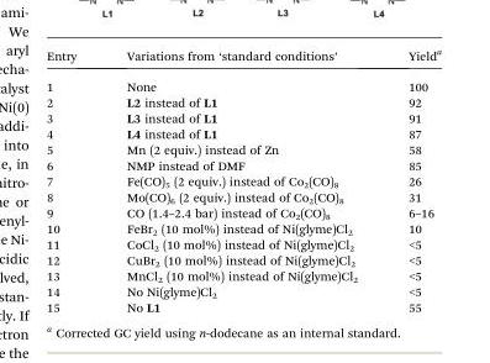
<table><thead><tr><td>Entry</td><td>Variations from ‘standard conditions’</td><td>Yield<sup>a</sup></td></tr></thead><tbody><tr><td>1</td><td>None</td><td>100</td></tr><tr><td>2</td><td>L2 instead of L1</td><td>92</td></tr><tr><td>3</td><td>L3 instead of L1</td><td>91</td></tr><tr><td>4</td><td>L4 instead of L1</td><td>87</td></tr><tr><td>5</td><td>Mn (2 equiv.) instead of Zn</td><td>58</td></tr><tr><td>6</td><td>NMP instead of DMF</td><td>85</td></tr><tr><td>7</td><td>Fe(CO)<sub>5</sub> (2 equiv.) instead of Co<sub>2</sub>(CO)<sub>8</sub></td><td>26</td></tr><tr><td>8</td><td>Mo(CO)<sub>6</sub> (2 equiv.) instead of Co<sub>2</sub>(CO)<sub>8</sub></td><td>31</td></tr><tr><td>9</td><td>CO (1.4–2.4 bar) instead of Co<sub>2</sub>(CO)<sub>8</sub></td><td>6–16</td></tr><tr><td>10</td><td>FeBr<sub>2</sub> (10 mol%) instead of Ni(glyme)Cl<sub>2</sub></td><td>10</td></tr><tr><td>11</td><td>CoCl<sub>2</sub> (10 mol%) instead of Ni(glyme)Cl<sub>2</sub></td><td>&lt;5</td></tr><tr><td>12</td><td>CuBr<sub>2</sub> (10 mol%) instead of Ni(glyme)Cl<sub>2</sub></td><td>&lt;5</td></tr><tr><td>13</td><td>MnCl<sub>2</sub> (10 mol%) instead of Ni(glyme)Cl<sub>2</sub></td><td>&lt;5</td></tr><tr><td>14</td><td>No Ni(glyme)Cl<sub>2</sub></td><td>&lt;5</td></tr><tr><td>15</td><td>No L1</td><td>55</td></tr></tbody></table>